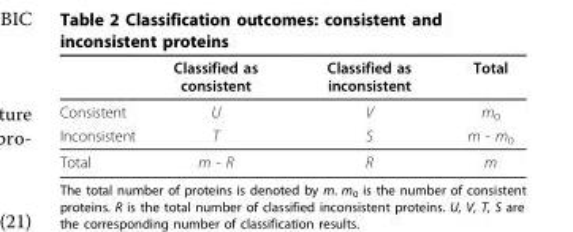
<table><thead><tr><td></td><td>Classified as consistent</td><td>Classified as inconsistent</td><td>Total</td></tr></thead><tbody><tr><td>Consistent</td><td>U</td><td>V</td><td>m<sub>0</sub></td></tr><tr><td>Inconsistent</td><td>T</td><td>S</td><td>m - m<sub>0</sub></td></tr><tr><td>Total</td><td>m - R</td><td>R</td><td>m</td></tr></tbody></table>